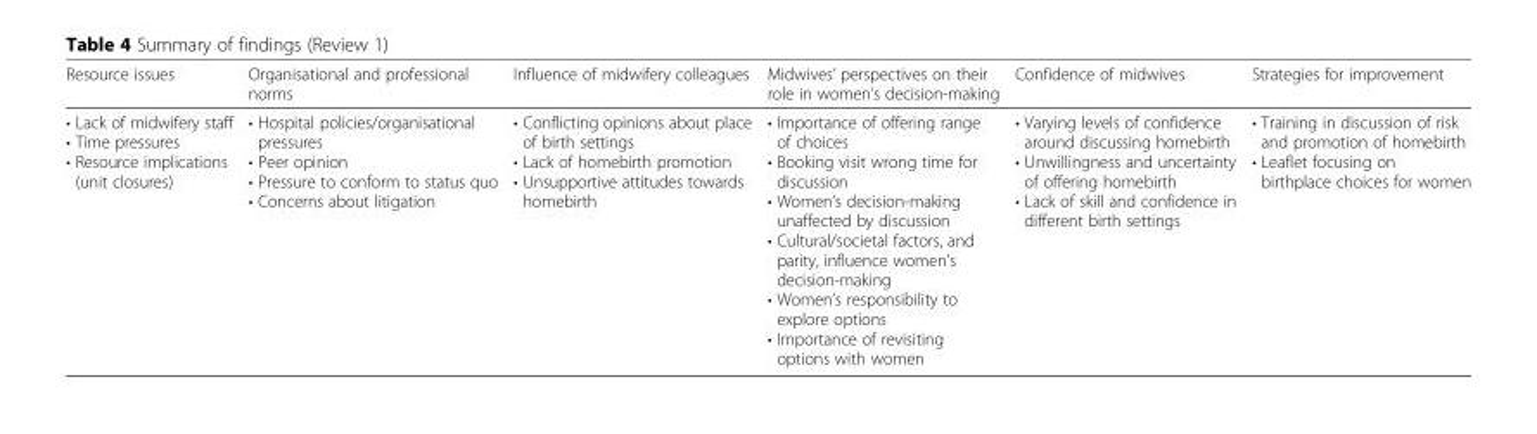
<table><thead><tr><td>Resource issues</td><td>Organisational and professional norms</td><td>Influence of midwifery colleagues</td><td>Midwives’ perspectives on their role in women’s decision-making</td><td>Confidence of midwives</td><td>Strategies for improvement</td></tr></thead><tbody><tr><td>• Lack of midwifery staff • Time pressures • Resource implications (unit closures)</td><td>• Hospital policies/organisational pressures • Peer opinion • Pressure to conform to status quo • Concerns about litigation</td><td>• Conflicting opinions about place of birth settings • Lack of homebirth promotion • Unsupportive attitudes towards homebirth</td><td>• Importance of offering range of choices • Booking visit wrong time for discussion • Women’s decision-making unaffected by discussion • Cultural/societal factors, and parity, influence women’s decision-making • Women’s responsibility to explore options • Importance of revisiting options with women</td><td>• Varying levels of confidence around discussing homebirth • Unwillingness and uncertainty of offering homebirth • Lack of skill and confidence in different birth settings</td><td>• Training in discussion of risk and promotion of homebirth • Leaflet focusing on birthplace choices for women</td></tr></tbody></table>